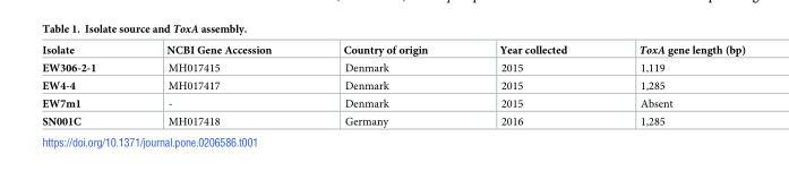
<table><thead><tr><td>Isolate</td><td>NCBI Gene Accession</td><td>Country of origin</td><td>Year collected</td><td>ToxA gene length (bp)</td></tr></thead><tbody><tr><td>EW306-2-1</td><td>MH017415</td><td>Denmark</td><td>2015</td><td>1,119</td></tr><tr><td>EW4-4</td><td>MH017417</td><td>Denmark</td><td>2015</td><td>1,285</td></tr><tr><td>EW7m1</td><td>-</td><td>Denmark</td><td>2015</td><td>Absent</td></tr><tr><td>SN001C</td><td>MH017418</td><td>Germany</td><td>2016</td><td>1,285</td></tr></tbody></table>